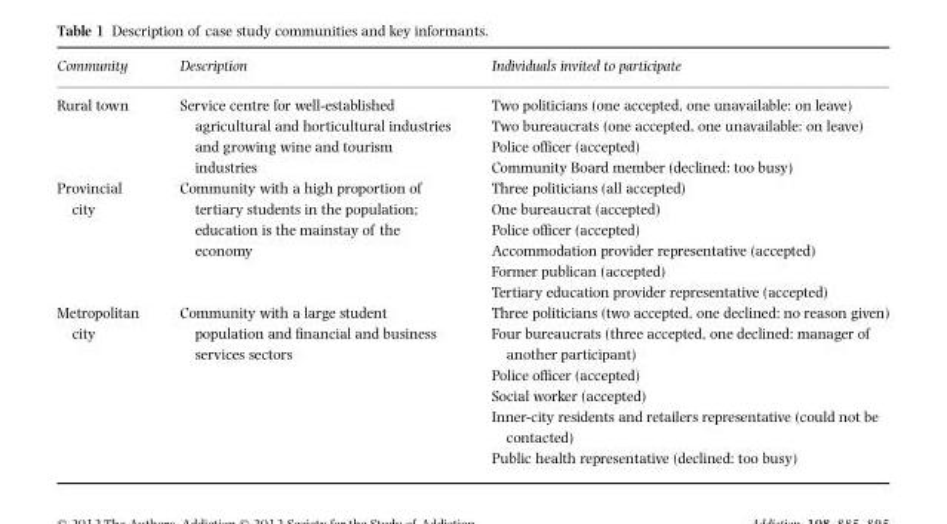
<table><thead><tr><td>Community</td><td>Description</td><td>Individuals invited to participate</td></tr></thead><tbody><tr><td rowspan="4">Rural town</td><td rowspan="4">Service centre for well-established agricultural and horticultural industries and growing wine and tourism industries</td><td>Two politicians (one accepted, one unavailable: on leave)</td></tr><tr><td>Two bureaucrats (one accepted, one unavailable: on leave)</td></tr><tr><td>Police officer (accepted)</td></tr><tr><td>Community Board member (declined: too busy)</td></tr><tr><td rowspan="6">Provincial city</td><td rowspan="6">Community with a high proportion of tertiary students in the population; education is the mainstay of the economy</td><td>Three politicians (all accepted)</td></tr><tr><td>One bureaucrat (accepted)</td></tr><tr><td>Police officer (accepted)</td></tr><tr><td>Accommodation provider representative (accepted)</td></tr><tr><td>Former publican (accepted)</td></tr><tr><td>Tertiary education provider representative (accepted)</td></tr><tr><td rowspan="6">Metropolitan city</td><td rowspan="6">Community with a large student population and financial and business services sectors</td><td>Three politicians (two accepted, one declined: no reason given)</td></tr><tr><td>Four bureaucrats (three accepted, one declined: manager of another participant)</td></tr><tr><td>Police officer (accepted)</td></tr><tr><td>Social worker (accepted)</td></tr><tr><td>Inner-city residents and retailers representative (could not be contacted)</td></tr><tr><td>Public health representative (declined: too busy)</td></tr></tbody></table>